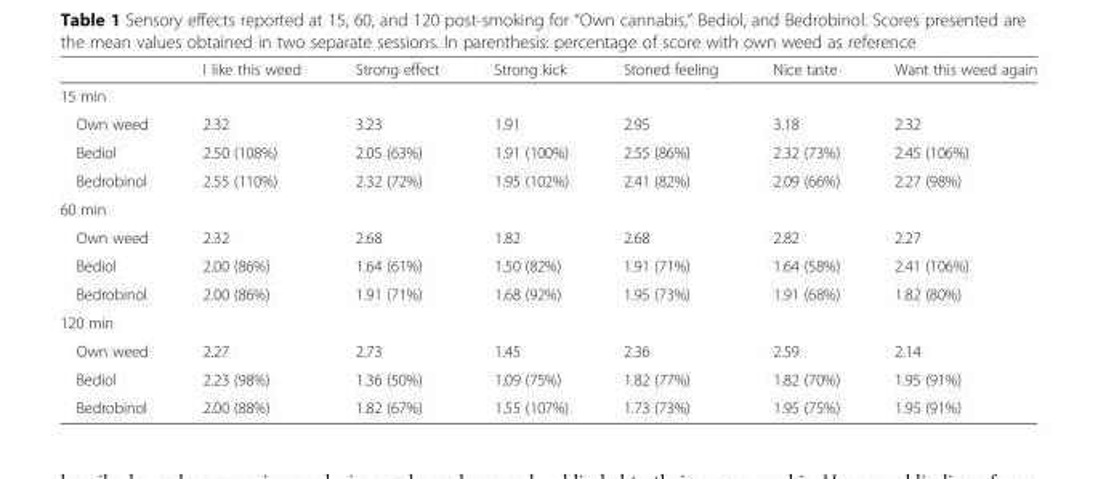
<table><thead><tr><td></td><td>I like this weed</td><td>Strong effect</td><td>Strong kick</td><td>Stoned feeling</td><td>Nice taste</td><td>Want this weed again</td></tr></thead><tbody><tr><td colspan="7">15 min</td></tr><tr><td>Own weed</td><td>2.32</td><td>3.23</td><td>1.91</td><td>2.95</td><td>3.18</td><td>2.32</td></tr><tr><td>Bediol</td><td>2.50 (108%)</td><td>2.05 (63%)</td><td>1.91 (100%)</td><td>2.55 (86%)</td><td>2.32 (73%)</td><td>2.45 (106%)</td></tr><tr><td>Bedrobinol</td><td>2.55 (110%)</td><td>2.32 (72%)</td><td>1.95 (102%)</td><td>2.41 (82%)</td><td>2.09 (66%)</td><td>2.27 (98%)</td></tr><tr><td colspan="7">60 min</td></tr><tr><td>Own weed</td><td>2.32</td><td>2.68</td><td>1.82</td><td>2.68</td><td>2.82</td><td>2.27</td></tr><tr><td>Bediol</td><td>2.00 (86%)</td><td>1.64 (61%)</td><td>1.50 (82%)</td><td>1.91 (71%)</td><td>1.64 (58%)</td><td>2.41 (106%)</td></tr><tr><td>Bedrobinol</td><td>2.00 (86%)</td><td>1.91 (71%)</td><td>1.68 (92%)</td><td>1.95 (73%)</td><td>1.91 (68%)</td><td>1.82 (80%)</td></tr><tr><td colspan="7">120 min</td></tr><tr><td>Own weed</td><td>2.27</td><td>2.73</td><td>1.45</td><td>2.36</td><td>2.59</td><td>2.14</td></tr><tr><td>Bediol</td><td>2.23 (98%)</td><td>1.36 (50%)</td><td>1.09 (75%)</td><td>1.82 (77%)</td><td>1.82 (70%)</td><td>1.95 (91%)</td></tr><tr><td>Bedrobinol</td><td>2.00 (88%)</td><td>1.82 (67%)</td><td>1.55 (107%)</td><td>1.73 (73%)</td><td>1.95 (75%)</td><td>1.95 (91%)</td></tr></tbody></table>